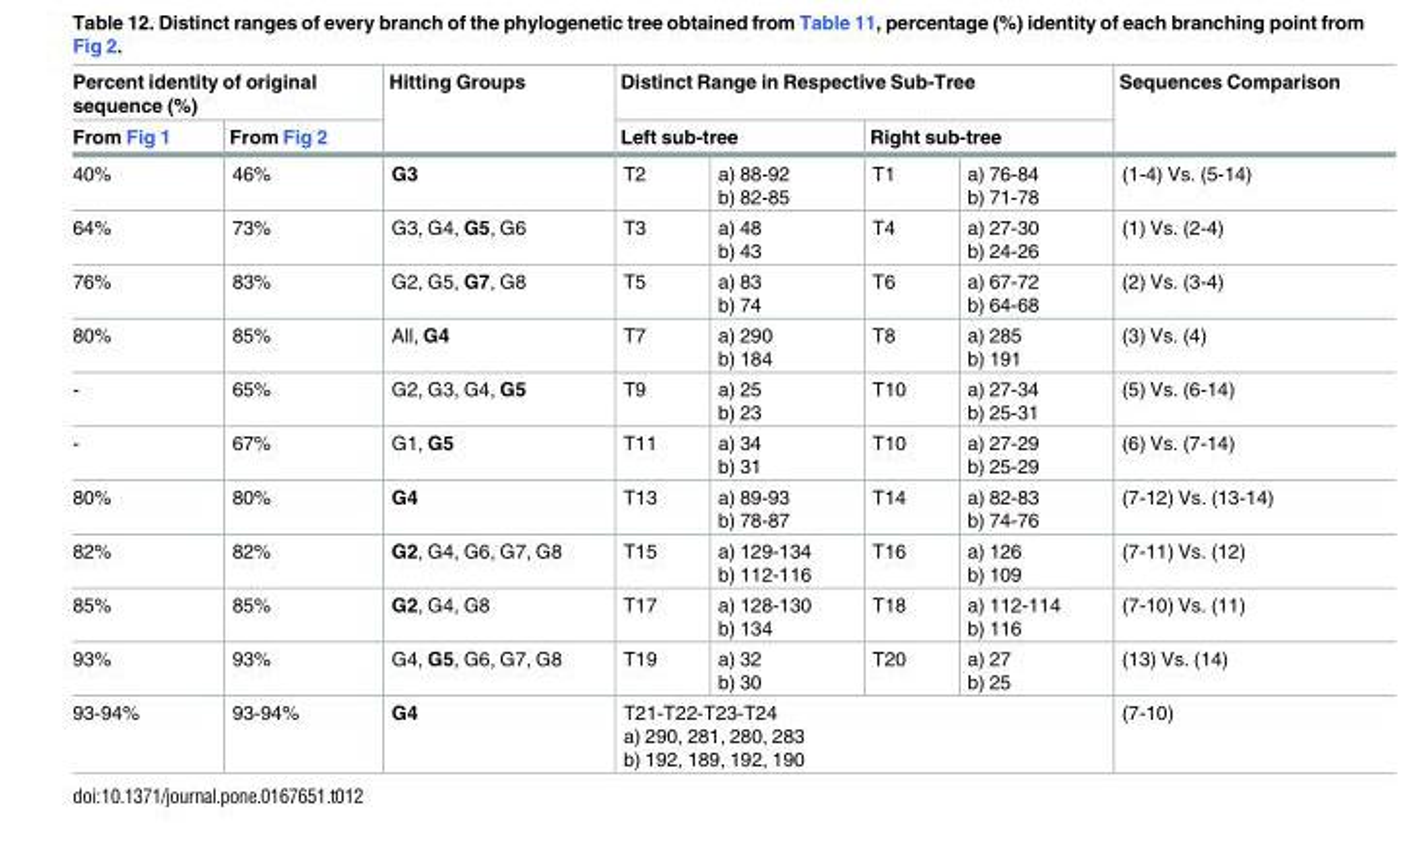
<table><thead><tr><td colspan="2">Percent identity of original sequence (%)</td><td rowspan="3">Hitting Groups G3</td><td colspan="4">Distinct Range in Respective Sub-Tree</td><td rowspan="3">Sequences Comparison (1-4) Vs. (5-14)</td></tr><tr><td rowspan="2">From Fig 1 40%</td><td rowspan="2">From Fig 2 46%</td><td colspan="2">Left sub-tree</td><td colspan="2">Right sub-tree</td></tr><tr><td>T2</td><td>a) 88-92 b) 82-85</td><td>T1</td><td>a) 76-84 b) 71-78</td></tr></thead><tbody><tr><td>64%</td><td>73%</td><td>G3, G4, G5, G6</td><td>T3</td><td>a) 48 b) 43</td><td>T4</td><td>a) 27-30 b) 24-26</td><td>(1) Vs. (2-4)</td></tr><tr><td>76%</td><td>83%</td><td>G2, G5, G7, G8</td><td>T5</td><td>a) 83 b) 74</td><td>T6</td><td>a) 67-72 b) 64-68</td><td>(2) Vs. (3-4)</td></tr><tr><td>80%</td><td>85%</td><td>All, G4</td><td>T7</td><td>a) 290 b) 184</td><td>T8</td><td>a) 285 b) 191</td><td>(3) Vs. (4)</td></tr><tr><td>-</td><td>65%</td><td>G2, G3, G4, G5</td><td>T9</td><td>a) 25 b) 23</td><td>T10</td><td>a) 27-34 b) 25-31</td><td>(5) Vs. (6-14)</td></tr><tr><td>-</td><td>67%</td><td>G1, G5</td><td>T11</td><td>a) 34 b) 31</td><td>T10</td><td>a) 27-29 b) 25-29</td><td>(6) Vs. (7-14)</td></tr><tr><td>80%</td><td>80%</td><td>G4</td><td>T13</td><td>a) 89-93 b) 78-87</td><td>T14</td><td>a) 82-83 b) 74-76</td><td>(7-12) Vs. (13-14)</td></tr><tr><td>82%</td><td>82%</td><td>G2, G4, G6, G7, G8</td><td>T15</td><td>a) 129-134 b) 112-116</td><td>T16</td><td>a) 126 b) 109</td><td>(7-11) Vs. (12)</td></tr><tr><td>85%</td><td>85%</td><td>G2, G4, G8</td><td>T17</td><td>a) 128-130 b) 134</td><td>T18</td><td>a) 112-114 b) 116</td><td>(7-10) Vs. (11)</td></tr><tr><td>93%</td><td>93%</td><td>G4, G5, G6, G7, G8</td><td>T19</td><td>a) 32 b) 30</td><td>T20</td><td>a) 27 b) 25</td><td>(13) Vs. (14)</td></tr><tr><td>93-94%</td><td>93-94%</td><td>G4</td><td colspan="4">T21-T22-T23-T24 a) 290, 281, 280, 283 b) 192, 189, 192, 190</td><td>(7-10)</td></tr></tbody></table>